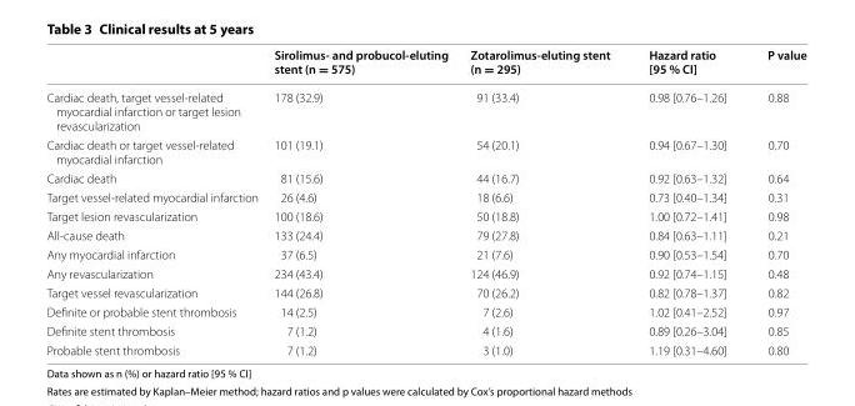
<table><thead><tr><td></td><td>Sirolimus‑ and probucol‑eluting stent (n = 575)</td><td>Zotarolimus‑eluting stent (n = 295)</td><td>Hazard ratio [95 % CI]</td><td>P value</td></tr></thead><tbody><tr><td>Cardiac death, target vessel‑related myocardial infarction or target lesion revascularization</td><td>178 (32.9)</td><td>91 (33.4)</td><td>0.98 [0.76–1.26]</td><td>0.88</td></tr><tr><td>Cardiac death or target vessel‑related myocardial infarction</td><td>101 (19.1)</td><td>54 (20.1)</td><td>0.94 [0.67–1.30]</td><td>0.70</td></tr><tr><td>Cardiac death</td><td>81 (15.6)</td><td>44 (16.7)</td><td>0.92 [0.63–1.32]</td><td>0.64</td></tr><tr><td>Target vessel‑related myocardial infarction</td><td>26 (4.6)</td><td>18 (6.6)</td><td>0.73 [0.40–1.34]</td><td>0.31</td></tr><tr><td>Target lesion revascularization</td><td>100 (18.6)</td><td>50 (18.8)</td><td>1.00 [0.72–1.41]</td><td>0.98</td></tr><tr><td>All‑cause death</td><td>133 (24.4)</td><td>79 (27.8)</td><td>0.84 [0.63–1.11]</td><td>0.21</td></tr><tr><td>Any myocardial infarction</td><td>37 (6.5)</td><td>21 (7.6)</td><td>0.90 [0.53–1.54]</td><td>0.70</td></tr><tr><td>Any revascularization</td><td>234 (43.4)</td><td>124 (46.9)</td><td>0.92 [0.74–1.15]</td><td>0.48</td></tr><tr><td>Target vessel revascularization</td><td>144 (26.8)</td><td>70 (26.2)</td><td>0.82 [0.78–1.37]</td><td>0.82</td></tr><tr><td>Definite or probable stent thrombosis</td><td>14 (2.5)</td><td>7 (2.6)</td><td>1.02 [0.41–2.52]</td><td>0.97</td></tr><tr><td>Definite stent thrombosis</td><td>7 (1.2)</td><td>4 (1.6)</td><td>0.89 [0.26–3.04]</td><td>0.85</td></tr><tr><td>Probable stent thrombosis</td><td>7 (1.2)</td><td>3 (1.0)</td><td>1.19 [0.31–4.60]</td><td>0.80</td></tr></tbody></table>